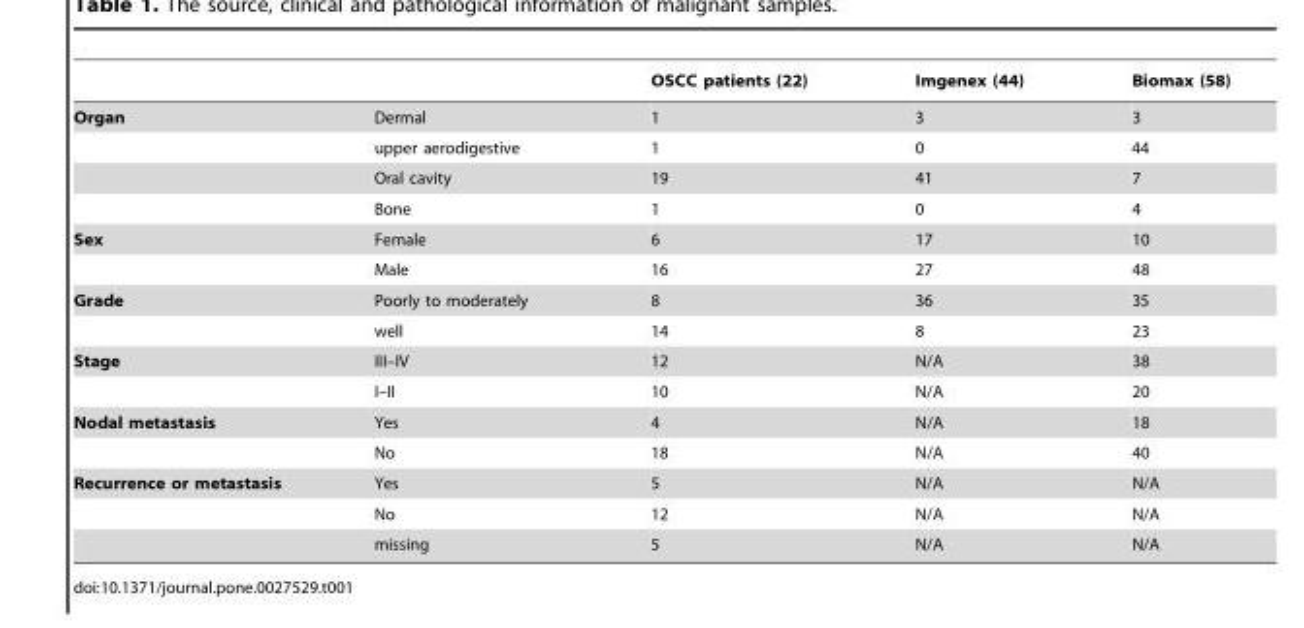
<table><thead><tr><td></td><td></td><td>OSCC patients (22)</td><td>Imgenex (44)</td><td>Biomax (58)</td></tr></thead><tbody><tr><td rowspan="4">Organ</td><td>Dermal</td><td>1</td><td>3</td><td>3</td></tr><tr><td>upper aerodigestive</td><td>1</td><td>0</td><td>44</td></tr><tr><td>Oral cavity</td><td>19</td><td>41</td><td>7</td></tr><tr><td>Bone</td><td>1</td><td>0</td><td>4</td></tr><tr><td rowspan="2">Sex</td><td>Female</td><td>6</td><td>17</td><td>10</td></tr><tr><td>Male</td><td>16</td><td>27</td><td>48</td></tr><tr><td rowspan="2">Grade</td><td>Poorly to moderately</td><td>8</td><td>36</td><td>35</td></tr><tr><td>well</td><td>14</td><td>8</td><td>23</td></tr><tr><td rowspan="2">Stage</td><td>III–IV</td><td>12</td><td>N/A</td><td>38</td></tr><tr><td>I–II</td><td>10</td><td>N/A</td><td>20</td></tr><tr><td rowspan="2">Nodal metastasis</td><td>Yes</td><td>4</td><td>N/A</td><td>18</td></tr><tr><td>No</td><td>18</td><td>N/A</td><td>40</td></tr><tr><td rowspan="3">Recurrence or metastasis</td><td>Yes</td><td>5</td><td>N/A</td><td>N/A</td></tr><tr><td>No</td><td>12</td><td>N/A</td><td>N/A</td></tr><tr><td>missing</td><td>5</td><td>N/A</td><td>N/A</td></tr></tbody></table>